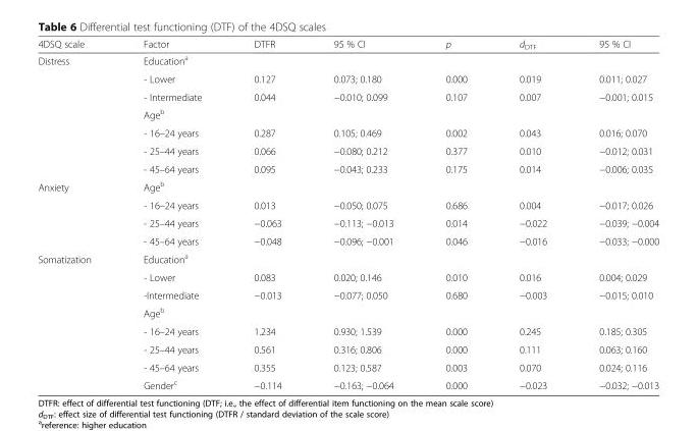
<table><thead><tr><td>4DSQ scale</td><td>Factor</td><td>DTFR</td><td>95 % CI</td><td>p</td><td>d<sub>DTF</sub></td><td>95 % CI</td></tr></thead><tbody><tr><td rowspan="7">Distress</td><td colspan="6">Education<sup>a</sup></td></tr><tr><td>- Lower</td><td>0.127</td><td>0.073; 0.180</td><td>0.000</td><td>0.019</td><td>0.011; 0.027</td></tr><tr><td>- Intermediate</td><td>0.044</td><td>−0.010; 0.099</td><td>0.107</td><td>0.007</td><td>−0.001; 0.015</td></tr><tr><td colspan="6">Age<sup>b</sup></td></tr><tr><td>- 16–24 years</td><td>0.287</td><td>0.105; 0.469</td><td>0.002</td><td>0.043</td><td>0.016; 0.070</td></tr><tr><td>- 25–44 years</td><td>0.066</td><td>−0.080; 0.212</td><td>0.377</td><td>0.010</td><td>−0.012; 0.031</td></tr><tr><td>- 45–64 years</td><td>0.095</td><td>−0.043; 0.233</td><td>0.175</td><td>0.014</td><td>−0.006; 0.035</td></tr><tr><td rowspan="4">Anxiety</td><td colspan="6">Age<sup>b</sup></td></tr><tr><td>- 16–24 years</td><td>0.013</td><td>−0.050; 0.075</td><td>0.686</td><td>0.004</td><td>−0.017; 0.026</td></tr><tr><td>- 25–44 years</td><td>−0.063</td><td>−0.113; −0.013</td><td>0.014</td><td>−0.022</td><td>−0.039; −0.004</td></tr><tr><td>- 45–64 years</td><td>−0.048</td><td>−0.096; −0.001</td><td>0.046</td><td>−0.016</td><td>−0.033; −0.000</td></tr><tr><td rowspan="8">Somatization</td><td colspan="6">Education<sup>a</sup></td></tr><tr><td>- Lower</td><td>0.083</td><td>0.020; 0.146</td><td>0.010</td><td>0.016</td><td>0.004; 0.029</td></tr><tr><td>-Intermediate</td><td>−0.013</td><td>−0.077; 0.050</td><td>0.680</td><td>−0.003</td><td>−0.015; 0.010</td></tr><tr><td colspan="6">Age<sup>b</sup></td></tr><tr><td>- 16–24 years</td><td>1.234</td><td>0.930; 1.539</td><td>0.000</td><td>0.245</td><td>0.185; 0.305</td></tr><tr><td>- 25–44 years</td><td>0.561</td><td>0.316; 0.806</td><td>0.000</td><td>0.111</td><td>0.063; 0.160</td></tr><tr><td>- 45–64 years</td><td>0.355</td><td>0.123; 0.587</td><td>0.003</td><td>0.070</td><td>0.024; 0.116</td></tr><tr><td>Gender<sup>c</sup></td><td>−0.114</td><td>−0.163; −0.064</td><td>0.000</td><td>−0.023</td><td>−0.032; −0.013</td></tr></tbody></table>